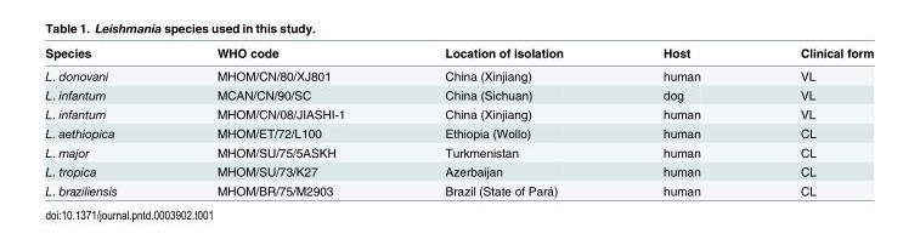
<table><thead><tr><td>Species</td><td>WHO code</td><td>Location of isolation</td><td>Host</td><td>Clinical form</td></tr></thead><tbody><tr><td>L. donovani</td><td>MHOM/CN/80/XJ801</td><td>China (Xinjiang)</td><td>human</td><td>VL</td></tr><tr><td>L. infantum</td><td>MCAN/CN/90/SC</td><td>China (Sichuan)</td><td>dog</td><td>VL</td></tr><tr><td>L. infantum</td><td>MHOM/CN/08/JIASHI-1</td><td>China (Xinjiang)</td><td>human</td><td>VL</td></tr><tr><td>L. aethiopica</td><td>MHOM/ET/72/L100</td><td>Ethiopia (Wollo)</td><td>human</td><td>CL</td></tr><tr><td>L. major</td><td>MHOM/SU/75/5ASKH</td><td>Turkmenistan</td><td>human</td><td>CL</td></tr><tr><td>L. tropica</td><td>MHOM/SU/73/K27</td><td>Azerbaijan</td><td>human</td><td>CL</td></tr><tr><td>L. braziliensis</td><td>MHOM/BR/75/M2903</td><td>Brazil (State of Pará)</td><td>human</td><td>CL</td></tr></tbody></table>